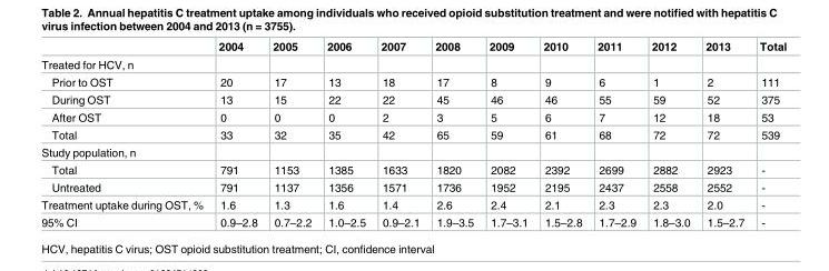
<table><thead><tr><td></td><td>2004</td><td>2005</td><td>2006</td><td>2007</td><td>2008</td><td>2009</td><td>2010</td><td>2011</td><td>2012</td><td>2013</td><td>Total</td></tr></thead><tbody><tr><td colspan="12">Treated for HCV, n</td></tr><tr><td>Prior to OST</td><td>20</td><td>17</td><td>13</td><td>18</td><td>17</td><td>8</td><td>9</td><td>6</td><td>1</td><td>2</td><td>111</td></tr><tr><td>During OST</td><td>13</td><td>15</td><td>22</td><td>22</td><td>45</td><td>46</td><td>46</td><td>55</td><td>59</td><td>52</td><td>375</td></tr><tr><td>After OST</td><td>0</td><td>0</td><td>0</td><td>2</td><td>3</td><td>5</td><td>6</td><td>7</td><td>12</td><td>18</td><td>53</td></tr><tr><td>Total</td><td>33</td><td>32</td><td>35</td><td>42</td><td>65</td><td>59</td><td>61</td><td>68</td><td>72</td><td>72</td><td>539</td></tr><tr><td colspan="12">Study population, n</td></tr><tr><td>Total</td><td>791</td><td>1153</td><td>1385</td><td>1633</td><td>1820</td><td>2082</td><td>2392</td><td>2699</td><td>2882</td><td>2923</td><td>-</td></tr><tr><td>Untreated</td><td>791</td><td>1137</td><td>1356</td><td>1571</td><td>1736</td><td>1952</td><td>2195</td><td>2437</td><td>2558</td><td>2552</td><td>-</td></tr><tr><td>Treatment uptake during OST, %</td><td>1.6</td><td>1.3</td><td>1.6</td><td>1.4</td><td>2.6</td><td>2.4</td><td>2.1</td><td>2.3</td><td>2.3</td><td>2.0</td><td>-</td></tr><tr><td>95% CI</td><td>0.9–2.8</td><td>0.7–2.2</td><td>1.0–2.5</td><td>0.9–2.1</td><td>1.9–3.5</td><td>1.7–3.1</td><td>1.5–2.8</td><td>1.7–2.9</td><td>1.8–3.0</td><td>1.5–2.7</td><td>-</td></tr></tbody></table>